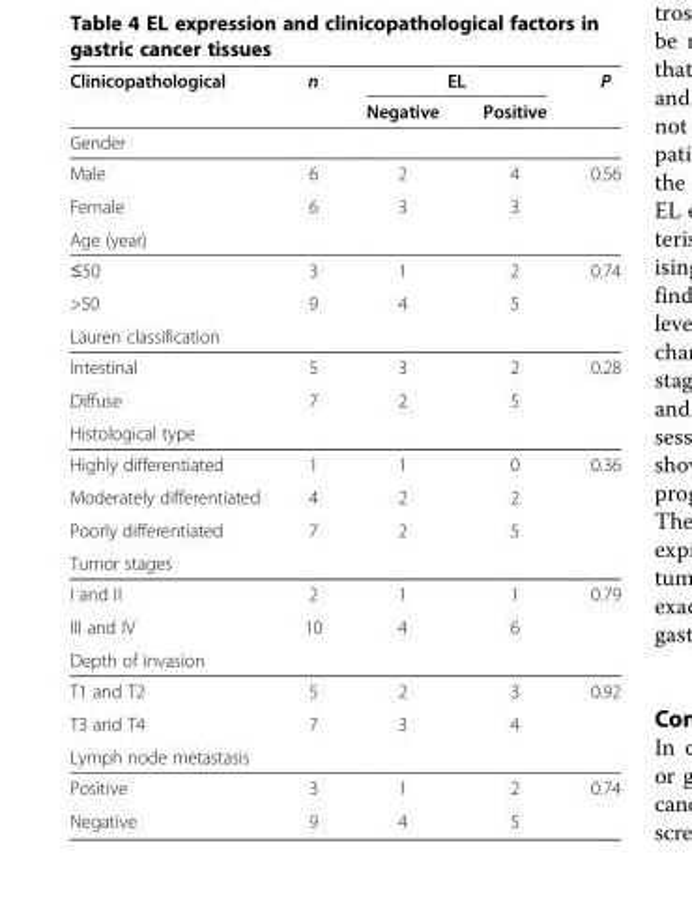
<table><thead><tr><td rowspan="2">Clinicopathological</td><td rowspan="2">n</td><td colspan="2">EL</td><td rowspan="2">P</td></tr><tr><td>Negative</td><td>Positive</td></tr></thead><tbody><tr><td colspan="5">Gender</td></tr><tr><td>Male</td><td>6</td><td>2</td><td>4</td><td>0.56</td></tr><tr><td>Female</td><td>6</td><td>3</td><td>3</td><td></td></tr><tr><td colspan="5">Age (year)</td></tr><tr><td>≤50</td><td>3</td><td>1</td><td>2</td><td>0.74</td></tr><tr><td>&gt;50</td><td>9</td><td>4</td><td>5</td><td></td></tr><tr><td colspan="5">Lauren classification</td></tr><tr><td>Intestinal</td><td>5</td><td>3</td><td>2</td><td>0.28</td></tr><tr><td>Diffuse</td><td>7</td><td>2</td><td>5</td><td></td></tr><tr><td colspan="5">Histological type</td></tr><tr><td>Highly differentiated</td><td>1</td><td>1</td><td>0</td><td>0.36</td></tr><tr><td>Moderately differentiated</td><td>4</td><td>2</td><td>2</td><td></td></tr><tr><td>Poorly differentiated</td><td>7</td><td>2</td><td>5</td><td></td></tr><tr><td colspan="5">Tumor stages</td></tr><tr><td>I and II</td><td>2</td><td>1</td><td>1</td><td>0.79</td></tr><tr><td>III and IV</td><td>10</td><td>4</td><td>6</td><td></td></tr><tr><td colspan="5">Depth of invasion</td></tr><tr><td>T1 and T2</td><td>5</td><td>2</td><td>3</td><td>0.92</td></tr><tr><td>T3 and T4</td><td>7</td><td>3</td><td>4</td><td></td></tr><tr><td colspan="5">Lymph node metastasis</td></tr><tr><td>Positive</td><td>3</td><td>1</td><td>2</td><td rowspan="2">0.74</td></tr><tr><td>Negative</td><td>9</td><td>4</td><td>5</td></tr></tbody></table>